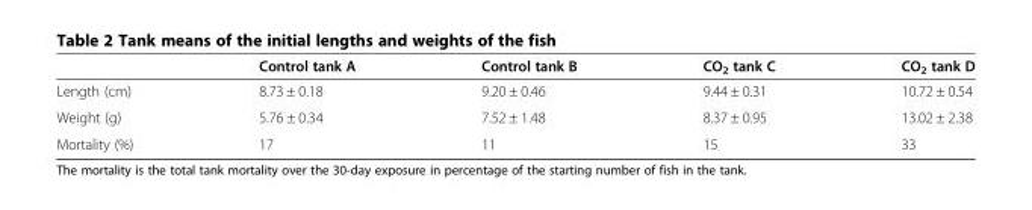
<table><thead><tr><td></td><td>Control tank A</td><td>Control tank B</td><td>CO<sub>2</sub> tank C</td><td>CO<sub>2</sub> tank D</td></tr></thead><tbody><tr><td>Length (cm)</td><td>8.73 ± 0.18</td><td>9.20 ± 0.46</td><td>9.44 ± 0.31</td><td>10.72 ± 0.54</td></tr><tr><td>Weight (g)</td><td>5.76 ± 0.34</td><td>7.52 ± 1.48</td><td>8.37 ± 0.95</td><td>13.02 ± 2.38</td></tr><tr><td>Mortality (%)</td><td>17</td><td>11</td><td>15</td><td>33</td></tr></tbody></table>